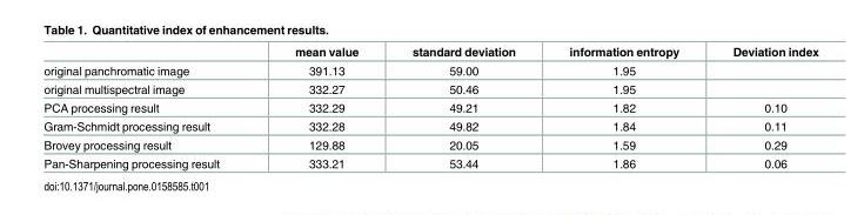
<table><thead><tr><td></td><td>mean value</td><td>standard deviation</td><td>information entropy</td><td>Deviation index</td></tr></thead><tbody><tr><td>original panchromatic image</td><td>391.13</td><td>59.00</td><td>1.95</td><td></td></tr><tr><td>original multispectral image</td><td>332.27</td><td>50.46</td><td>1.95</td><td></td></tr><tr><td>PCA processing result</td><td>332.29</td><td>49.21</td><td>1.82</td><td>0.10</td></tr><tr><td>Gram-Schmidt processing result</td><td>332.28</td><td>49.82</td><td>1.84</td><td>0.11</td></tr><tr><td>Brovey processing result</td><td>129.88</td><td>20.05</td><td>1.59</td><td>0.29</td></tr><tr><td>Pan-Sharpening processing result</td><td>333.21</td><td>53.44</td><td>1.86</td><td>0.06</td></tr></tbody></table>